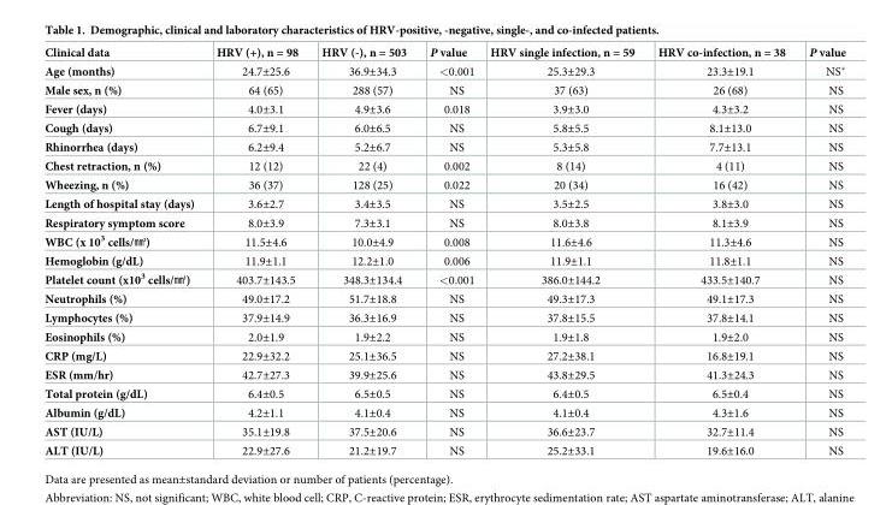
<table><thead><tr><td>Clinical data</td><td>HRV (+), n = 98</td><td>HRV (-), n = 503</td><td>P value</td><td>HRV single infection, n = 59</td><td>HRV co-infection, n = 38</td><td>P value</td></tr></thead><tbody><tr><td>Age (months)</td><td>24.7±25.6</td><td>36.9±34.3</td><td>&lt;0.001</td><td>25.3±29.3</td><td>23.3±19.1</td><td>NS*</td></tr><tr><td>Male sex, n (%)</td><td>64 (65)</td><td>288 (57)</td><td>NS</td><td>37 (63)</td><td>26 (68)</td><td>NS</td></tr><tr><td>Fever (days)</td><td>4.0±3.1</td><td>4.9±3.6</td><td>0.018</td><td>3.9±3.0</td><td>4.3±3.2</td><td>NS</td></tr><tr><td>Cough (days)</td><td>6.7±9.1</td><td>6.0±6.5</td><td>NS</td><td>5.8±5.5</td><td>8.1±13.0</td><td>NS</td></tr><tr><td>Rhinorrhea (days)</td><td>6.2±9.4</td><td>5.2±6.7</td><td>NS</td><td>5.3±5.8</td><td>7.7±13.1</td><td>NS</td></tr><tr><td>Chest retraction, n (%)</td><td>12 (12)</td><td>22 (4)</td><td>0.002</td><td>8 (14)</td><td>4 (11)</td><td>NS</td></tr><tr><td>Wheezing, n (%)</td><td>36 (37)</td><td>128 (25)</td><td>0.022</td><td>20 (34)</td><td>16 (42)</td><td>NS</td></tr><tr><td>Length of hospital stay (days)</td><td>3.6±2.7</td><td>3.4±3.5</td><td>NS</td><td>3.5±2.5</td><td>3.8±3.0</td><td>NS</td></tr><tr><td>Respiratory symptom score</td><td>8.0±3.9</td><td>7.3±3.1</td><td>NS</td><td>8.0±3.8</td><td>8.1±3.9</td><td>NS</td></tr><tr><td>WBC (x 10<sup>3</sup> cells/㎣)</td><td>11.5±4.6</td><td>10.0±4.9</td><td>0.008</td><td>11.6±4.6</td><td>11.3±4.6</td><td>NS</td></tr><tr><td>Hemoglobin (g/dL)</td><td>11.9±1.1</td><td>12.2±1.0</td><td>0.006</td><td>11.9±1.1</td><td>11.8±1.1</td><td>NS</td></tr><tr><td>Platelet count (x10<sup>3</sup> cells/㎣)</td><td>403.7±143.5</td><td>348.3±134.4</td><td>&lt;0.001</td><td>386.0±144.2</td><td>433.5±140.7</td><td>NS</td></tr><tr><td>Neutrophils (%)</td><td>49.0±17.2</td><td>51.7±18.8</td><td>NS</td><td>49.3±17.3</td><td>49.1±17.3</td><td>NS</td></tr><tr><td>Lymphocytes (%)</td><td>37.9±14.9</td><td>36.3±16.9</td><td>NS</td><td>37.8±15.5</td><td>37.8±14.1</td><td>NS</td></tr><tr><td>Eosinophils (%)</td><td>2.0±1.9</td><td>1.9±2.2</td><td>NS</td><td>1.9±1.8</td><td>1.9±2.0</td><td>NS</td></tr><tr><td>CRP (mg/L)</td><td>22.9±32.2</td><td>25.1±36.5</td><td>NS</td><td>27.2±38.1</td><td>16.8±19.1</td><td>NS</td></tr><tr><td>ESR (mm/hr)</td><td>42.7±27.3</td><td>39.9±25.6</td><td>NS</td><td>43.8±29.5</td><td>41.3±24.3</td><td>NS</td></tr><tr><td>Total protein (g/dL)</td><td>6.4±0.5</td><td>6.5±0.5</td><td>NS</td><td>6.4±0.5</td><td>6.5±0.4</td><td>NS</td></tr><tr><td>Albumin (g/dL)</td><td>4.2±1.1</td><td>4.1±0.4</td><td>NS</td><td>4.1±0.4</td><td>4.3±1.6</td><td>NS</td></tr><tr><td>AST (IU/L)</td><td>35.1±19.8</td><td>37.5±20.6</td><td>NS</td><td>36.6±23.7</td><td>32.7±11.4</td><td>NS</td></tr><tr><td>ALT (IU/L)</td><td>22.9±27.6</td><td>21.2±19.7</td><td>NS</td><td>25.2±33.1</td><td>19.6±16.0</td><td>NS</td></tr></tbody></table>